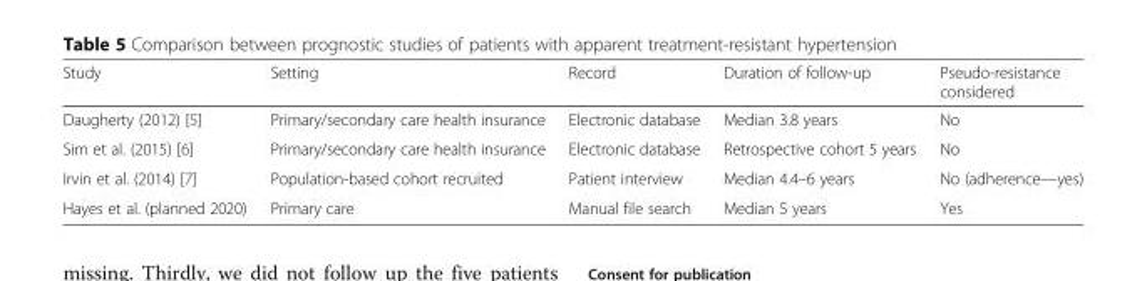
<table><thead><tr><td>Study</td><td>Setting</td><td>Record</td><td>Duration of follow-up</td><td>Pseudo-resistance considered</td></tr></thead><tbody><tr><td>Daugherty (2012) [5]</td><td>Primary/secondary care health insurance</td><td>Electronic database</td><td>Median 3.8 years</td><td>No</td></tr><tr><td>Sim et al. (2015) [6]</td><td>Primary/secondary care health insurance</td><td>Electronic database</td><td>Retrospective cohort 5 years</td><td>No</td></tr><tr><td>Irvin et al. (2014) [7]</td><td>Population-based cohort recruited</td><td>Patient interview</td><td>Median 4.4–6 years</td><td>No (adherence—yes)</td></tr><tr><td>Hayes et al. (planned 2020)</td><td>Primary care</td><td>Manual file search</td><td>Median 5 years</td><td>Yes</td></tr></tbody></table>